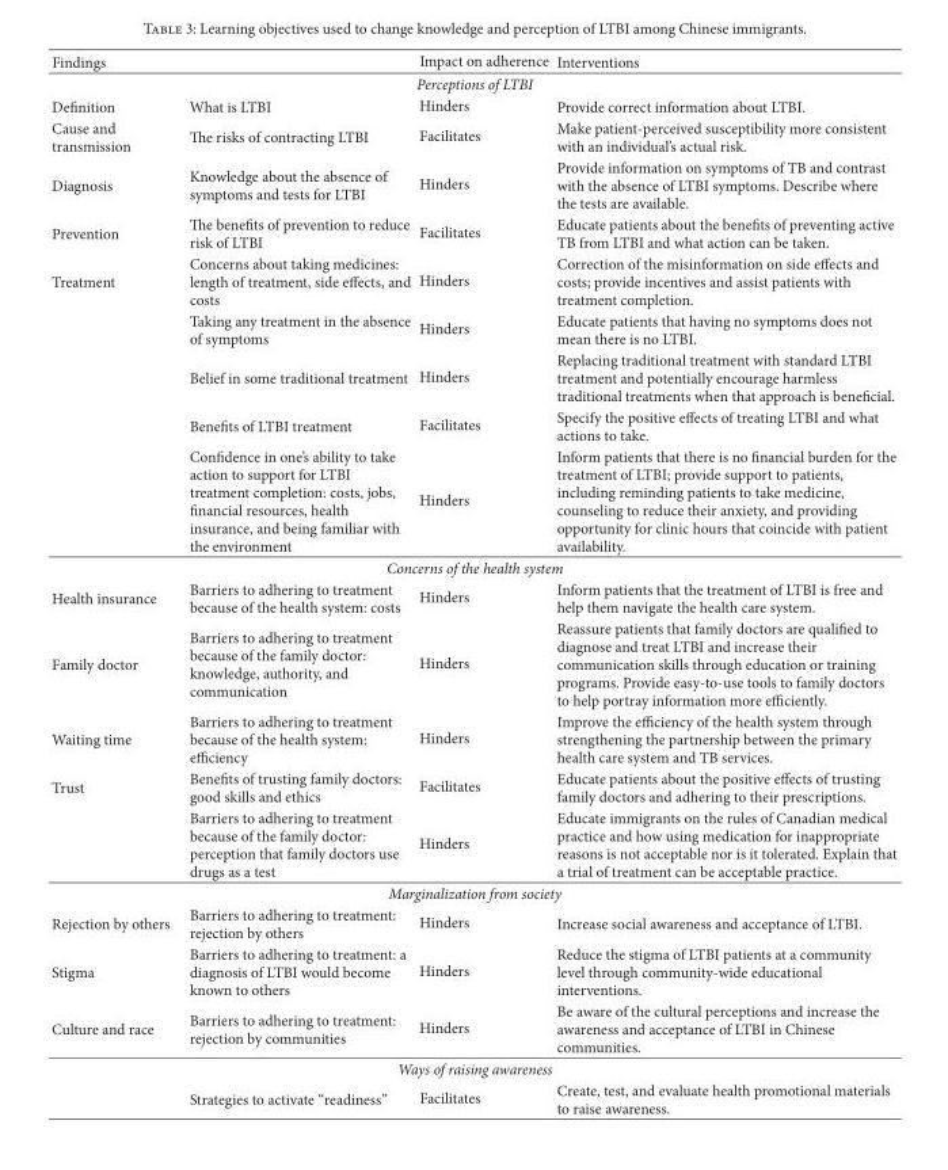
<table><thead><tr><td>Findings</td><td></td><td>Impact on adherence</td><td>Interventions</td></tr></thead><tbody><tr><td colspan="4">Perceptions of LTBI</td></tr><tr><td>Definition</td><td>What is LTBI</td><td>Hinders</td><td>Provide correct information about LTBI.</td></tr><tr><td>Cause and transmission</td><td>The risks of contracting LTBI</td><td>Facilitates</td><td>Make patient-perceived susceptibility more consistent with an individual’s actual risk.</td></tr><tr><td>Diagnosis</td><td>Knowledge about the absence of symptoms and tests for LTBI</td><td>Hinders</td><td>Provide information on symptoms of TB and contrast with the absence of LTBI symptoms. Describe where the tests are available.</td></tr><tr><td>Prevention</td><td>The benefits of prevention to reduce risk of LTBI</td><td>Facilitates</td><td>Educate patients about the benefits of preventing active TB from LTBI and what action can be taken.</td></tr><tr><td rowspan="5">Treatment</td><td>Concerns about taking medicines: length of treatment, side effects, and costs</td><td>Hinders</td><td>Correction of the misinformation on side effects and costs; provide incentives and assist patients with treatment completion.</td></tr><tr><td>Taking any treatment in the absence of symptoms</td><td>Hinders</td><td>Educate patients that having no symptoms does not mean there is no LTBI.</td></tr><tr><td>Belief in some traditional treatment</td><td>Hinders</td><td>Replacing traditional treatment with standard LTBI treatment and potentially encourage harmless traditional treatments when that approach is beneficial.</td></tr><tr><td>Benefits of LTBI treatment</td><td>Facilitates</td><td>Specify the positive effects of treating LTBI and what actions to take.</td></tr><tr><td>Confidence in one’s ability to take action to support for LTBI treatment completion: costs, jobs, financial resources, health insurance, and being familiar with the environment</td><td>Hinders</td><td>Inform patients that there is no financial burden for the treatment of LTBI; provide support to patients, including reminding patients to take medicine, counseling to reduce their anxiety, and providing opportunity for clinic hours that coincide with patient availability.</td></tr><tr><td colspan="4">Concerns of the health system</td></tr><tr><td>Health insurance</td><td>Barriers to adhering to treatment because of the health system: costs</td><td>Hinders</td><td>Inform patients that the treatment of LTBI is free and help them navigate the health care system.</td></tr><tr><td>Family doctor</td><td>Barriers to adhering to treatment because of the family doctor: knowledge, authority, and communication</td><td>Hinders</td><td>Reassure patients that family doctors are qualified to diagnose and treat LTBI and increase their communication skills through education or training programs. Provide easy-to-use tools to family doctors to help portray information more efficiently.</td></tr><tr><td>Waiting time</td><td>Barriers to adhering to treatment because of the health system: efficiency</td><td>Hinders</td><td>Improve the efficiency of the health system through strengthening the partnership between the primary health care system and TB services.</td></tr><tr><td rowspan="2">Trust</td><td>Benefits of trusting family doctors: good skills and ethics</td><td>Facilitates</td><td>Educate patients about the positive effects of trusting family doctors and adhering to their prescriptions.</td></tr><tr><td>Barriers to adhering to treatment because of the family doctor: perception that family doctors use drugs as a test</td><td>Hinders</td><td>Educate immigrants on the rules of Canadian medical practice and how using medication for inappropriate reasons is not acceptable nor is it tolerated. Explain that a trial of treatment can be acceptable practice.</td></tr><tr><td colspan="4">Marginalization from society</td></tr><tr><td>Rejection by others</td><td>Barriers to adhering to treatment: rejection by others</td><td>Hinders</td><td>Increase social awareness and acceptance of LTBI.</td></tr><tr><td>Stigma</td><td>Barriers to adhering to treatment: a diagnosis of LTBI would become known to others</td><td>Hinders</td><td>Reduce the stigma of LTBI patients at a community level through community-wide educational interventions.</td></tr><tr><td>Culture and race</td><td>Barriers to adhering to treatment: rejection by communities</td><td>Hinders</td><td>Be aware of the cultural perceptions and increase the awareness and acceptance of LTBI in Chinese communities.</td></tr><tr><td colspan="4">Ways of raising awareness</td></tr><tr><td></td><td>Strategies to activate “readiness”</td><td>Facilitates</td><td>Create, test, and evaluate health promotional materials to raise awareness.</td></tr></tbody></table>